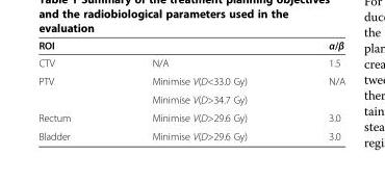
<table><thead><tr><td>ROI</td><td></td><td>α/β</td></tr></thead><tbody><tr><td>CTV</td><td>N/A</td><td>1.5</td></tr><tr><td rowspan="2">PTV</td><td>Minimise V(D&lt;33.0 Gy)</td><td>N/A</td></tr><tr><td>Minimise V(D&gt;34.7 Gy)</td><td></td></tr><tr><td>Rectum</td><td>Minimise V(D&gt;29.6 Gy)</td><td>3.0</td></tr><tr><td>Bladder</td><td>Minimise V(D&gt;29.6 Gy)</td><td>3.0</td></tr></tbody></table>